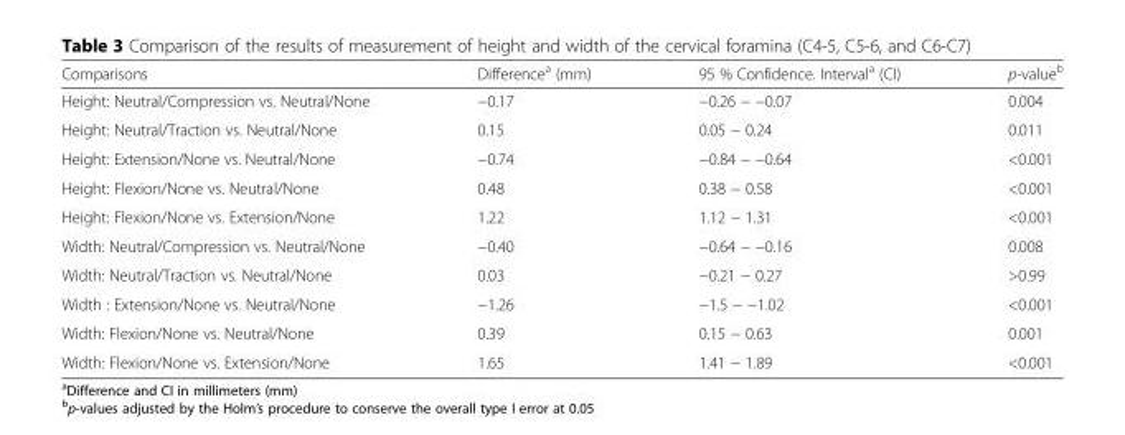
<table><thead><tr><td>Comparisons</td><td>Difference<sup>a</sup> (mm)</td><td>95 % Confidence. Interval<sup>a</sup> (CI)</td><td>p-value<sup>b</sup></td></tr></thead><tbody><tr><td>Height: Neutral/Compression vs. Neutral/None</td><td>−0.17</td><td>−0.26 − −0.07</td><td>0.004</td></tr><tr><td>Height: Neutral/Traction vs. Neutral/None</td><td>0.15</td><td>0.05 − 0.24</td><td>0.011</td></tr><tr><td>Height: Extension/None vs. Neutral/None</td><td>−0.74</td><td>−0.84 − −0.64</td><td>&lt;0.001</td></tr><tr><td>Height: Flexion/None vs. Neutral/None</td><td>0.48</td><td>0.38 − 0.58</td><td>&lt;0.001</td></tr><tr><td>Height: Flexion/None vs. Extension/None</td><td>1.22</td><td>1.12 − 1.31</td><td>&lt;0.001</td></tr><tr><td>Width: Neutral/Compression vs. Neutral/None</td><td>−0.40</td><td>−0.64 − −0.16</td><td>0.008</td></tr><tr><td>Width: Neutral/Traction vs. Neutral/None</td><td>0.03</td><td>−0.21 − 0.27</td><td>&gt;0.99</td></tr><tr><td>Width : Extension/None vs. Neutral/None</td><td>−1.26</td><td>−1.5 − −1.02</td><td>&lt;0.001</td></tr><tr><td>Width: Flexion/None vs. Neutral/None</td><td>0.39</td><td>0.15 − 0.63</td><td>0.001</td></tr><tr><td>Width: Flexion/None vs. Extension/None</td><td>1.65</td><td>1.41 − 1.89</td><td>&lt;0.001</td></tr></tbody></table>